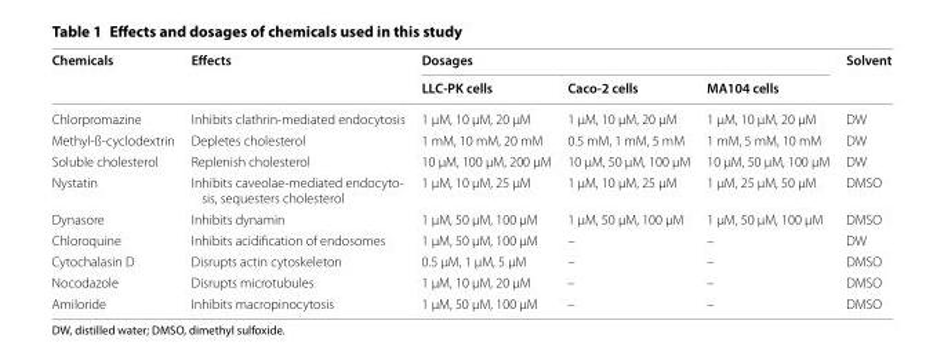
<table><thead><tr><td rowspan="2">Chemicals</td><td rowspan="2">Effects</td><td colspan="3">Dosages</td><td rowspan="2">Solvent</td></tr><tr><td>LLC-PK cells</td><td>Caco-2 cells</td><td>MA104 cells</td></tr></thead><tbody><tr><td>Chlorpromazine</td><td>Inhibits clathrin‑mediated endocytosis</td><td>1 μM, 10 μM, 20 μM</td><td>1 μM, 10 μM, 20 μM</td><td>1 μM, 10 μM, 20 μM</td><td>DW</td></tr><tr><td>Methyl‑ß‑cyclodextrin</td><td>Depletes cholesterol</td><td>1 mM, 10 mM, 20 mM</td><td>0.5 mM, 1 mM, 5 mM</td><td>1 mM, 5 mM, 10 mM</td><td>DW</td></tr><tr><td>Soluble cholesterol</td><td>Replenish cholesterol</td><td>10 μM, 100 μM, 200 μM</td><td>10 μM, 50 μM, 100 μM</td><td>10 μM, 50 μM, 100 μM</td><td>DW</td></tr><tr><td>Nystatin</td><td>Inhibits caveolae‑mediated endocyto‑ sis, sequesters cholesterol</td><td>1 μM, 10 μM, 25 μM</td><td>1 μM, 10 μM, 25 μM</td><td>1 μM, 25 μM, 50 μM</td><td>DMSO</td></tr><tr><td>Dynasore</td><td>Inhibits dynamin</td><td>1 μM, 50 μM, 100 μM</td><td>1 μM, 50 μM, 100 μM</td><td>1 μM, 50 μM, 100 μM</td><td>DMSO</td></tr><tr><td>Chloroquine</td><td>Inhibits acidification of endosomes</td><td>1 μM, 50 μM, 100 μM</td><td>–</td><td>–</td><td>DW</td></tr><tr><td>Cytochalasin D</td><td>Disrupts actin cytoskeleton</td><td>0.5 μM, 1 μM, 5 μM</td><td>–</td><td>–</td><td>DMSO</td></tr><tr><td>Nocodazole</td><td>Disrupts microtubules</td><td>1 μM, 10 μM, 20 μM</td><td>–</td><td>–</td><td>DMSO</td></tr><tr><td>Amiloride</td><td>Inhibits macropinocytosis</td><td>1 μM, 50 μM, 100 μM</td><td>–</td><td>–</td><td>DMSO</td></tr></tbody></table>